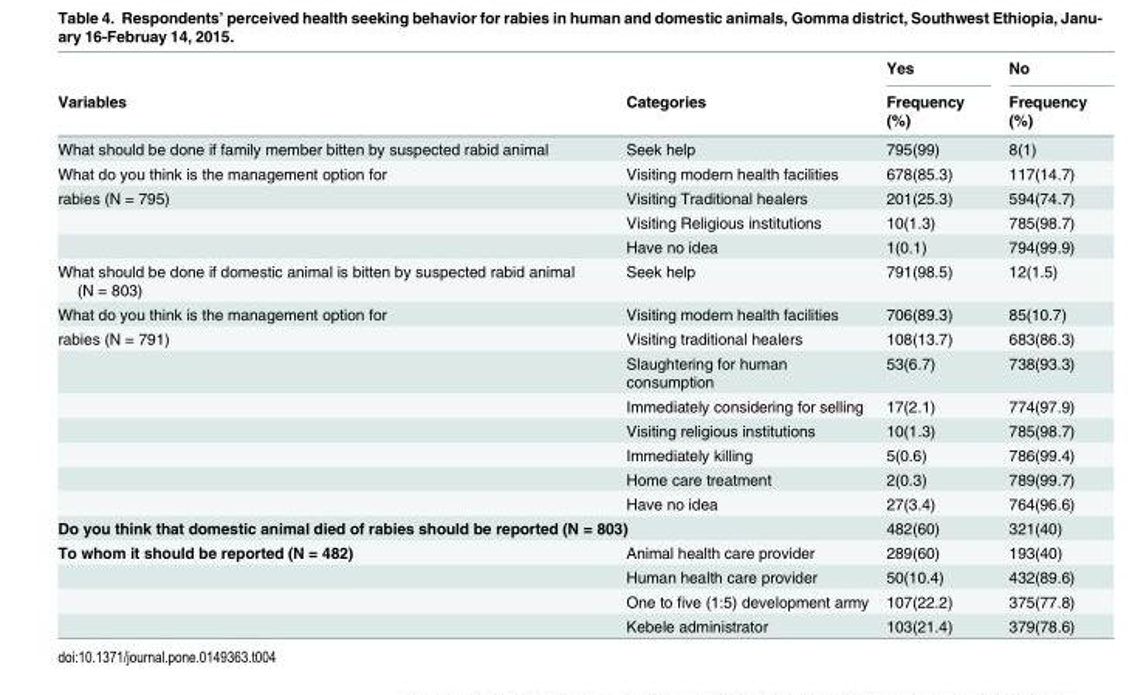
<table><thead><tr><td rowspan="2">Variables</td><td rowspan="2">Categories</td><td rowspan="2">Yes Frequency (%)</td><td rowspan="2">No Frequency (%)</td></tr><tr></tr></thead><tbody><tr><td>What should be done if family member bitten by suspected rabid animal</td><td>Seek help</td><td>795(99)</td><td>8(1)</td></tr><tr><td>What do you think is the management option for</td><td>Visiting modern health facilities</td><td>678(85.3)</td><td>117(14.7)</td></tr><tr><td rowspan="3">rabies (N = 795)</td><td>Visiting Traditional healers</td><td>201(25.3)</td><td>594(74.7)</td></tr><tr><td>Visiting Religious institutions</td><td>10(1.3)</td><td>785(98.7)</td></tr><tr><td>Have no idea</td><td>1(0.1)</td><td>794(99.9)</td></tr><tr><td>What should be done if domestic animal is bitten by suspected rabid animal (N = 803)</td><td>Seek help</td><td>791(98.5)</td><td>12(1.5)</td></tr><tr><td>What do you think is the management option for</td><td>Visiting modern health facilities</td><td>706(89.3)</td><td>85(10.7)</td></tr><tr><td rowspan="7">rabies (N = 791)</td><td>Visiting traditional healers</td><td>108(13.7)</td><td>683(86.3)</td></tr><tr><td>Slaughtering for human consumption</td><td>53(6.7)</td><td>738(93.3)</td></tr><tr><td>Immediately considering for selling</td><td>17(2.1)</td><td>774(97.9)</td></tr><tr><td>Visiting religious institutions</td><td>10(1.3)</td><td>785(98.7)</td></tr><tr><td>Immediately killing</td><td>5(0.6)</td><td>786(99.4)</td></tr><tr><td>Home care treatment</td><td>2(0.3)</td><td>789(99.7)</td></tr><tr><td>Have no idea</td><td>27(3.4)</td><td>764(96.6)</td></tr><tr><td colspan="2">Do you think that domestic animal died of rabies should be reported (N = 803)</td><td>482(60)</td><td>321(40)</td></tr><tr><td rowspan="4">To whom it should be reported (N = 482)</td><td>Animal health care provider</td><td>289(60)</td><td>193(40)</td></tr><tr><td>Human health care provider</td><td>50(10.4)</td><td>432(89.6)</td></tr><tr><td>One to five (1:5) development army</td><td>107(22.2)</td><td>375(77.8)</td></tr><tr><td>Kebele administrator</td><td>103(21.4)</td><td>379(78.6)</td></tr></tbody></table>